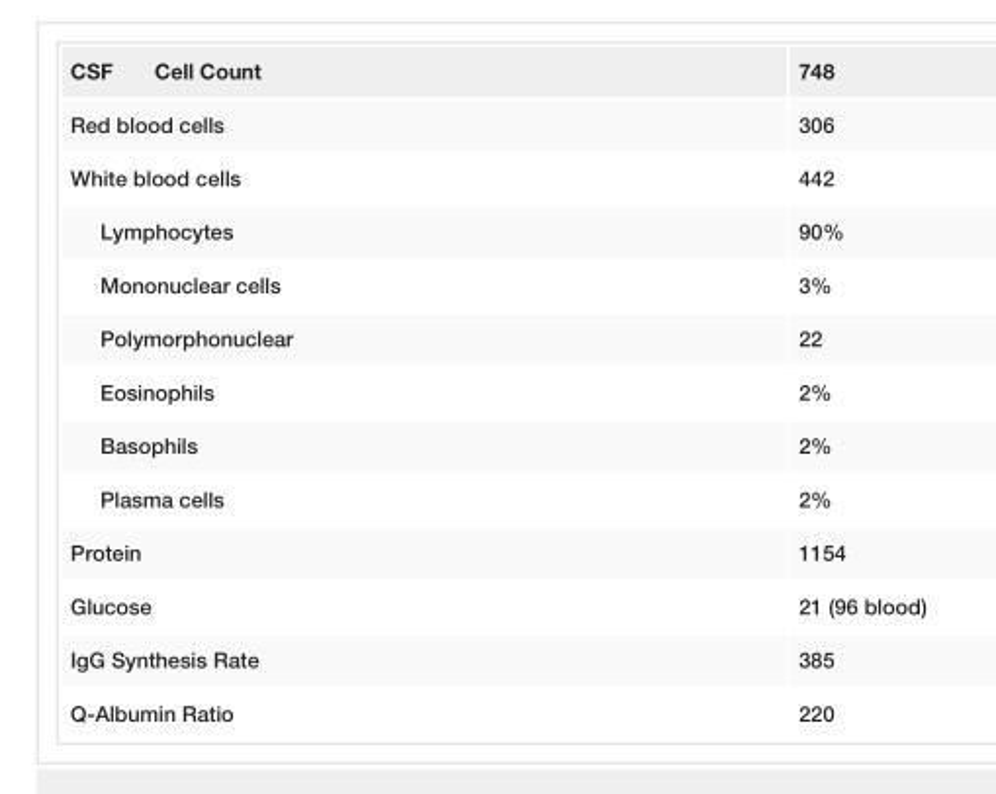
<table><tbody><tr><td>CSF Cell Count</td><td>748</td></tr><tr><td>Red blood cells</td><td>306</td></tr><tr><td>White blood cells</td><td>442</td></tr><tr><td>Lymphocytes</td><td>90%</td></tr><tr><td>Mononuclear cells</td><td>3%</td></tr><tr><td>Polymorphonuclear</td><td>22</td></tr><tr><td>Eosinophils</td><td>2%</td></tr><tr><td>Basophils</td><td>2%</td></tr><tr><td>Plasma cells</td><td>2%</td></tr><tr><td>Protein</td><td>1154</td></tr><tr><td>Glucose</td><td>21 (96 blood)</td></tr><tr><td>IgG Synthesis Rate</td><td>385</td></tr><tr><td>Q-Albumin Ratio</td><td>220</td></tr></tbody></table>